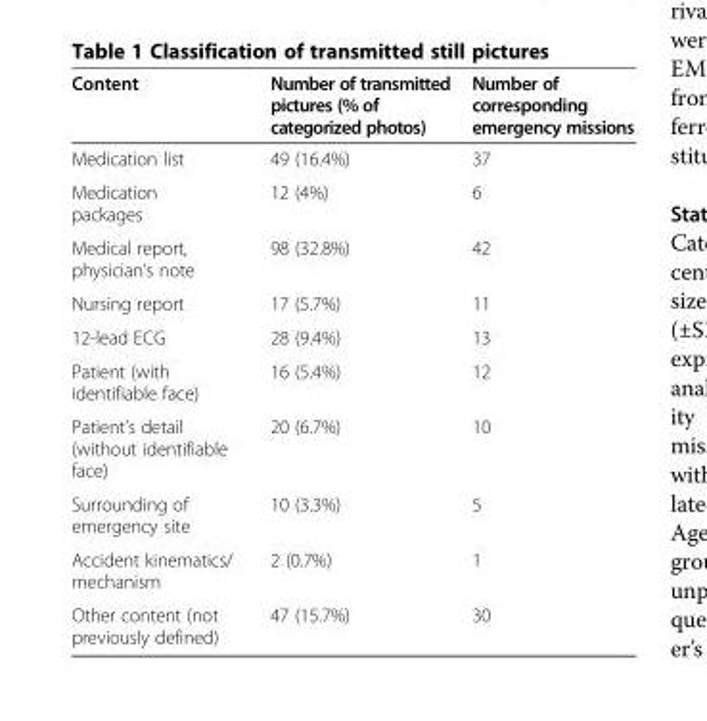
<table><thead><tr><td>Content</td><td>Number of transmitted pictures (% of categorized photos)</td><td>Number of corresponding emergency missions</td></tr></thead><tbody><tr><td>Medication list</td><td>49 (16.4%)</td><td>37</td></tr><tr><td>Medication packages</td><td>12 (4%)</td><td>6</td></tr><tr><td>Medical report, physician’s note</td><td>98 (32.8%)</td><td>42</td></tr><tr><td>Nursing report</td><td>17 (5.7%)</td><td>11</td></tr><tr><td>12-lead ECG</td><td>28 (9.4%)</td><td>13</td></tr><tr><td>Patient (with identifiable face)</td><td>16 (5.4%)</td><td>12</td></tr><tr><td>Patient’s detail (without identifiable face)</td><td>20 (6.7%)</td><td>10</td></tr><tr><td>Surrounding of emergency site</td><td>10 (3.3%)</td><td>5</td></tr><tr><td>Accident kinematics/ mechanism</td><td>2 (0.7%)</td><td>1</td></tr><tr><td>Other content (not previously defined)</td><td>47 (15.7%)</td><td>30</td></tr></tbody></table>